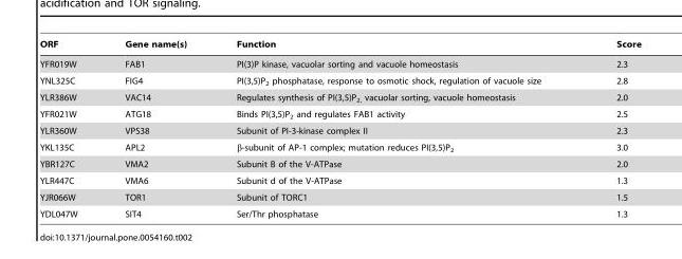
<table><thead><tr><td>ORF</td><td>Gene name(s)</td><td>Function</td><td>Score</td></tr></thead><tbody><tr><td>YFR019W</td><td>FAB1</td><td>PI(3)P kinase, vacuolar sorting and vacuole homeostasis</td><td>2.3</td></tr><tr><td>YNL325C</td><td>FIG4</td><td>PI(3,5)P<sub>2</sub> phosphatase, response to osmotic shock, regulation of vacuole size</td><td>2.8</td></tr><tr><td>YLR386W</td><td>VAC14</td><td>Regulates synthesis of PI(3,5)P<sub>2,</sub> vacuolar sorting, vacuole homeostasis</td><td>2.0</td></tr><tr><td>YFR021W</td><td>ATG18</td><td>Binds PI(3,5)P<sub>2</sub> and regulates FAB1 activity</td><td>2.5</td></tr><tr><td>YLR360W</td><td>VPS38</td><td>Subunit of PI-3-kinase complex II</td><td>2.3</td></tr><tr><td>YKL135C</td><td>APL2</td><td>β-subunit of AP-1 complex; mutation reduces PI(3,5)P<sub>2</sub></td><td>3.0</td></tr><tr><td>YBR127C</td><td>VMA2</td><td>Subunit B of the V-ATPase</td><td>2.0</td></tr><tr><td>YLR447C</td><td>VMA6</td><td>Subunit d of the V-ATPase</td><td>1.3</td></tr><tr><td>YJR066W</td><td>TOR1</td><td>Subunit of TORC1</td><td>1.5</td></tr><tr><td>YDL047W</td><td>SIT4</td><td>Ser/Thr phosphatase</td><td>1.3</td></tr></tbody></table>